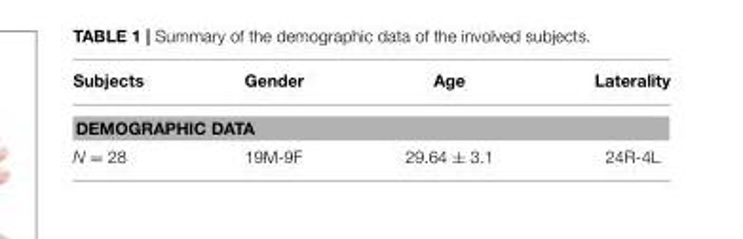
<table><thead><tr><td>Subjects</td><td>Gender</td><td>Age</td><td>Laterality</td></tr></thead><tbody><tr><td colspan="4">DEMOGRAPHIC DATA</td></tr><tr><td>N = 28</td><td>19M-9F</td><td>29.64 ± 3.1</td><td>24R-4L</td></tr></tbody></table>